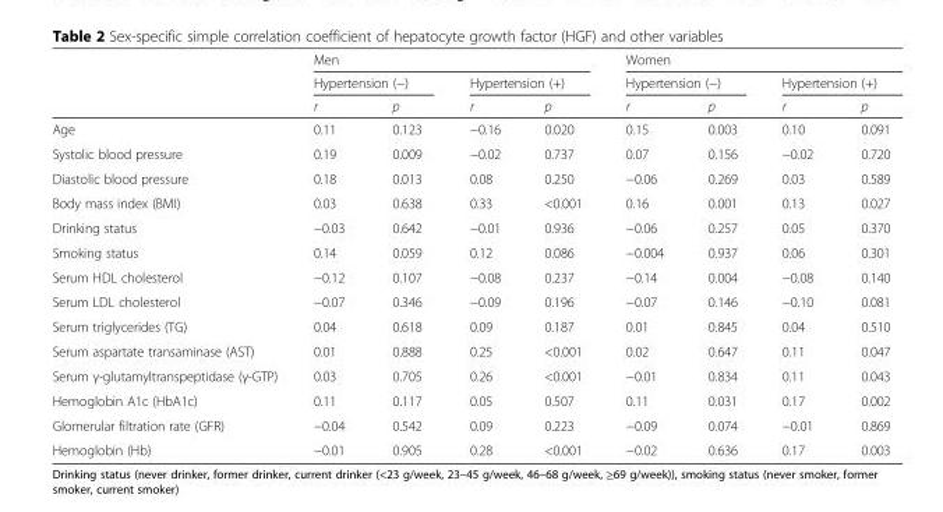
<table><thead><tr><td rowspan="3"></td><td colspan="4">Men</td><td colspan="4">Women</td></tr><tr><td colspan="2">Hypertension (−)</td><td colspan="2">Hypertension (+)</td><td colspan="2">Hypertension (−)</td><td colspan="2">Hypertension (+)</td></tr><tr><td>r</td><td>p</td><td>r</td><td>p</td><td>r</td><td>p</td><td>r</td><td>p</td></tr></thead><tbody><tr><td>Age</td><td>0.11</td><td>0.123</td><td>−0.16</td><td>0.020</td><td>0.15</td><td>0.003</td><td>0.10</td><td>0.091</td></tr><tr><td>Systolic blood pressure</td><td>0.19</td><td>0.009</td><td>−0.02</td><td>0.737</td><td>0.07</td><td>0.156</td><td>−0.02</td><td>0.720</td></tr><tr><td>Diastolic blood pressure</td><td>0.18</td><td>0.013</td><td>0.08</td><td>0.250</td><td>−0.06</td><td>0.269</td><td>0.03</td><td>0.589</td></tr><tr><td>Body mass index (BMI)</td><td>0.03</td><td>0.638</td><td>0.33</td><td>&lt;0.001</td><td>0.16</td><td>0.001</td><td>0.13</td><td>0.027</td></tr><tr><td>Drinking status</td><td>−0.03</td><td>0.642</td><td>−0.01</td><td>0.936</td><td>−0.06</td><td>0.257</td><td>0.05</td><td>0.370</td></tr><tr><td>Smoking status</td><td>0.14</td><td>0.059</td><td>0.12</td><td>0.086</td><td>−0.004</td><td>0.937</td><td>0.06</td><td>0.301</td></tr><tr><td>Serum HDL cholesterol</td><td>−0.12</td><td>0.107</td><td>−0.08</td><td>0.237</td><td>−0.14</td><td>0.004</td><td>−0.08</td><td>0.140</td></tr><tr><td>Serum LDL cholesterol</td><td>−0.07</td><td>0.346</td><td>−0.09</td><td>0.196</td><td>−0.07</td><td>0.146</td><td>−0.10</td><td>0.081</td></tr><tr><td>Serum triglycerides (TG)</td><td>0.04</td><td>0.618</td><td>0.09</td><td>0.187</td><td>0.01</td><td>0.845</td><td>0.04</td><td>0.510</td></tr><tr><td>Serum aspartate transaminase (AST)</td><td>0.01</td><td>0.888</td><td>0.25</td><td>&lt;0.001</td><td>0.02</td><td>0.647</td><td>0.11</td><td>0.047</td></tr><tr><td>Serum γ-glutamyltranspeptidase (γ-GTP)</td><td>0.03</td><td>0.705</td><td>0.26</td><td>&lt;0.001</td><td>−0.01</td><td>0.834</td><td>0.11</td><td>0.043</td></tr><tr><td>Hemoglobin A1c (HbA1c)</td><td>0.11</td><td>0.117</td><td>0.05</td><td>0.507</td><td>0.11</td><td>0.031</td><td>0.17</td><td>0.002</td></tr><tr><td>Glomerular filtration rate (GFR)</td><td>−0.04</td><td>0.542</td><td>0.09</td><td>0.223</td><td>−0.09</td><td>0.074</td><td>−0.01</td><td>0.869</td></tr><tr><td>Hemoglobin (Hb)</td><td>−0.01</td><td>0.905</td><td>0.28</td><td>&lt;0.001</td><td>−0.02</td><td>0.636</td><td>0.17</td><td>0.003</td></tr></tbody></table>